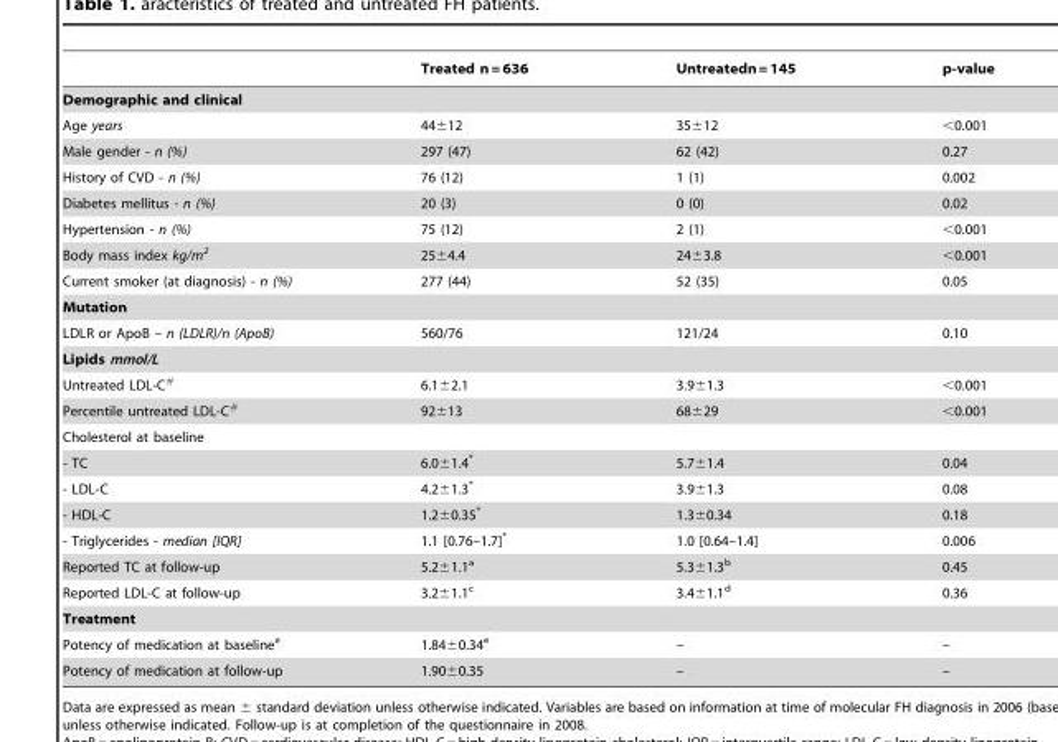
<table><thead><tr><td></td><td>Treated n = 636</td><td>Untreatedn = 145</td><td>p-value</td></tr></thead><tbody><tr><td colspan="4">Demographic and clinical</td></tr><tr><td>Age years</td><td>44±12</td><td>35±12</td><td>&lt;0.001</td></tr><tr><td>Male gender - n (%)</td><td>297 (47)</td><td>62 (42)</td><td>0.27</td></tr><tr><td>History of CVD - n (%)</td><td>76 (12)</td><td>1 (1)</td><td>0.002</td></tr><tr><td>Diabetes mellitus - n (%)</td><td>20 (3)</td><td>0 (0)</td><td>0.02</td></tr><tr><td>Hypertension - n (%)</td><td>75 (12)</td><td>2 (1)</td><td>&lt;0.001</td></tr><tr><td>Body mass index kg/m<sup>2</sup></td><td>25±4.4</td><td>24±3.8</td><td>&lt;0.001</td></tr><tr><td>Current smoker (at diagnosis) - n (%)</td><td>277 (44)</td><td>52 (35)</td><td>0.05</td></tr><tr><td colspan="4">Mutation</td></tr><tr><td>LDLR or ApoB – n (LDLR)/n (ApoB)</td><td>560/76</td><td>121/24</td><td>0.10</td></tr><tr><td colspan="4">Lipids mmol/L</td></tr><tr><td>Untreated LDL-C<sup>#</sup></td><td>6.1±2.1</td><td>3.9±1.3</td><td>&lt;0.001</td></tr><tr><td>Percentile untreated LDL-C<sup>#</sup></td><td>92±13</td><td>68±29</td><td>&lt;0.001</td></tr><tr><td colspan="4">Cholesterol at baseline</td></tr><tr><td>- TC</td><td>6.0±1.4*</td><td>5.7±1.4</td><td>0.04</td></tr><tr><td>- LDL-C</td><td>4.2±1.3*</td><td>3.9±1.3</td><td>0.08</td></tr><tr><td>- HDL-C</td><td>1.2±0.35*</td><td>1.3±0.34</td><td>0.18</td></tr><tr><td>- Triglycerides - median [IQR]</td><td>1.1 [0.76–1.7]*</td><td>1.0 [0.64–1.4]</td><td>0.006</td></tr><tr><td>Reported TC at follow-up</td><td>5.2±1.1<sup>a</sup></td><td>5.3±1.3<sup>b</sup></td><td>0.45</td></tr><tr><td>Reported LDL-C at follow-up</td><td>3.2±1.1<sup>c</sup></td><td>3.4±1.1<sup>d</sup></td><td>0.36</td></tr><tr><td colspan="4">Treatment</td></tr><tr><td>Potency of medication at baseline<sup>e</sup></td><td>1.84±0.34<sup>e</sup></td><td>–</td><td>–</td></tr><tr><td>Potency of medication at follow-up</td><td>1.90±0.35</td><td>–</td><td>–</td></tr></tbody></table>